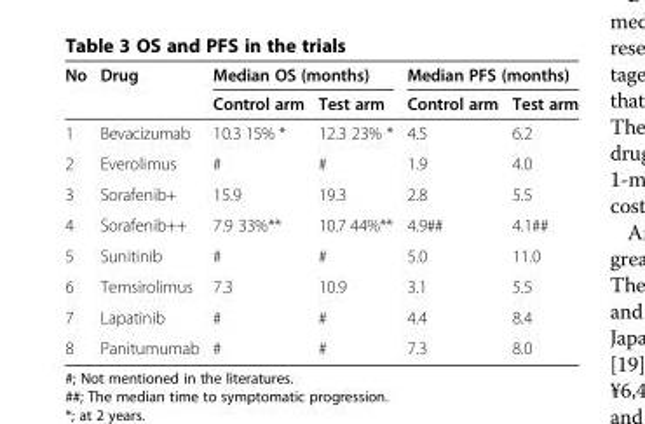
<table><thead><tr><td rowspan="2">No</td><td rowspan="2">Drug</td><td colspan="2">Median OS (months)</td><td colspan="2">Median PFS (months)</td></tr><tr><td>Control arm</td><td>Test arm</td><td>Control arm</td><td>Test arm</td></tr></thead><tbody><tr><td>1</td><td>Bevacizumab</td><td>10.3 15% *</td><td>12.3 23% *</td><td>4.5</td><td>6.2</td></tr><tr><td>2</td><td>Everolimus</td><td>#</td><td>#</td><td>1.9</td><td>4.0</td></tr><tr><td>3</td><td>Sorafenib+</td><td>15.9</td><td>19.3</td><td>2.8</td><td>5.5</td></tr><tr><td>4</td><td>Sorafenib++</td><td>7.9 33%**</td><td>10.7 44%**</td><td>4.9##</td><td>4.1##</td></tr><tr><td>5</td><td>Sunitinib</td><td>#</td><td>#</td><td>5.0</td><td>11.0</td></tr><tr><td>6</td><td>Temsirolimus</td><td>7.3</td><td>10.9</td><td>3.1</td><td>5.5</td></tr><tr><td>7</td><td>Lapatinib</td><td>#</td><td>#</td><td>4.4</td><td>8.4</td></tr><tr><td>8</td><td>Panitumumab</td><td>#</td><td>#</td><td>7.3</td><td>8.0</td></tr></tbody></table>